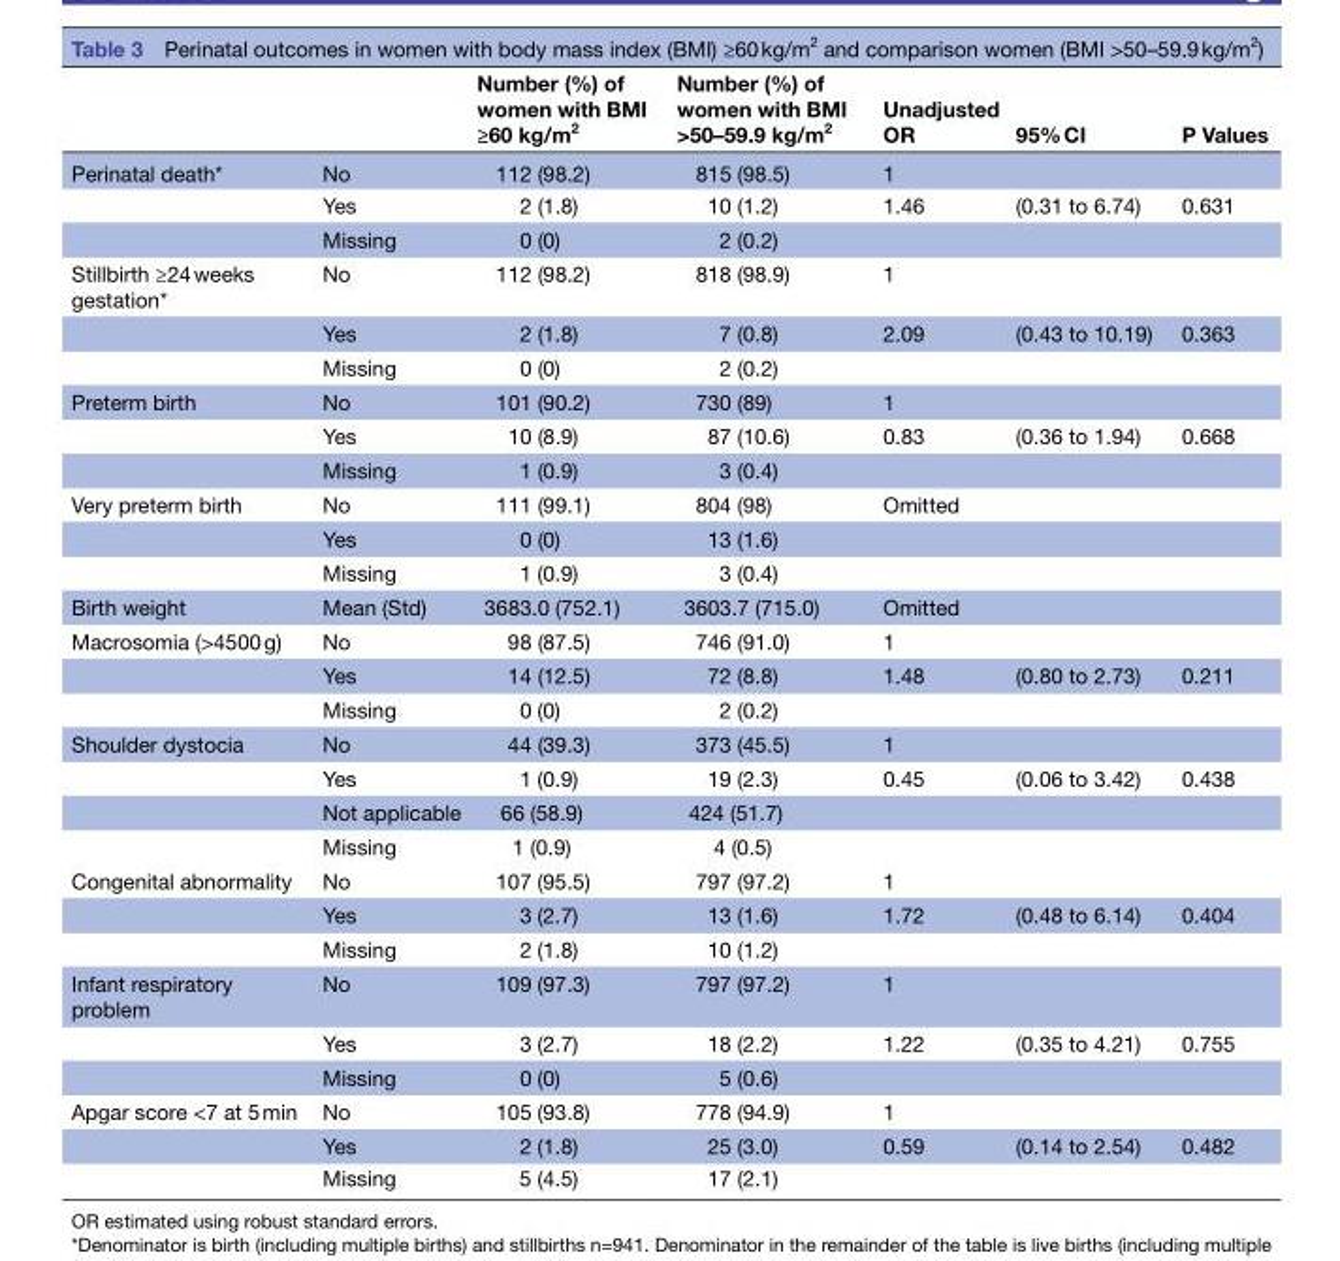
<table><thead><tr><td></td><td></td><td>Number (%) of women with BMI ≥60 kg/m<sup>2</sup></td><td>Number (%) of women with BMI &gt;50–59.9 kg/m<sup>2</sup></td><td>Unadjusted OR</td><td>95% CI</td><td>P Values</td></tr></thead><tbody><tr><td rowspan="3">Perinatal death*</td><td>No</td><td>112 (98.2)</td><td>815 (98.5)</td><td>1</td><td></td><td></td></tr><tr><td>Yes</td><td>2 (1.8)</td><td>10 (1.2)</td><td>1.46</td><td>(0.31 to 6.74)</td><td>0.631</td></tr><tr><td>Missing</td><td>0 (0)</td><td>2 (0.2)</td><td></td><td></td><td></td></tr><tr><td rowspan="3">Stillbirth ≥24 weeks gestation*</td><td>No</td><td>112 (98.2)</td><td>818 (98.9)</td><td>1</td><td></td><td></td></tr><tr><td>Yes</td><td>2 (1.8)</td><td>7 (0.8)</td><td>2.09</td><td>(0.43 to 10.19)</td><td>0.363</td></tr><tr><td>Missing</td><td>0 (0)</td><td>2 (0.2)</td><td></td><td></td><td></td></tr><tr><td rowspan="3">Preterm birth</td><td>No</td><td>101 (90.2)</td><td>730 (89)</td><td>1</td><td></td><td></td></tr><tr><td>Yes</td><td>10 (8.9)</td><td>87 (10.6)</td><td>0.83</td><td>(0.36 to 1.94)</td><td>0.668</td></tr><tr><td>Missing</td><td>1 (0.9)</td><td>3 (0.4)</td><td></td><td></td><td></td></tr><tr><td rowspan="3">Very preterm birth</td><td>No</td><td>111 (99.1)</td><td>804 (98)</td><td>Omitted</td><td></td><td></td></tr><tr><td>Yes</td><td>0 (0)</td><td>13 (1.6)</td><td></td><td></td><td></td></tr><tr><td>Missing</td><td>1 (0.9)</td><td>3 (0.4)</td><td></td><td></td><td></td></tr><tr><td>Birth weight</td><td>Mean (Std)</td><td>3683.0 (752.1)</td><td>3603.7 (715.0)</td><td>Omitted</td><td></td><td></td></tr><tr><td rowspan="3">Macrosomia (&gt;4500 g)</td><td>No</td><td>98 (87.5)</td><td>746 (91.0)</td><td>1</td><td></td><td></td></tr><tr><td>Yes</td><td>14 (12.5)</td><td>72 (8.8)</td><td>1.48</td><td>(0.80 to 2.73)</td><td>0.211</td></tr><tr><td>Missing</td><td>0 (0)</td><td>2 (0.2)</td><td></td><td></td><td></td></tr><tr><td rowspan="4">Shoulder dystocia</td><td>No</td><td>44 (39.3)</td><td>373 (45.5)</td><td>1</td><td></td><td></td></tr><tr><td>Yes</td><td>1 (0.9)</td><td>19 (2.3)</td><td>0.45</td><td>(0.06 to 3.42)</td><td>0.438</td></tr><tr><td>Not applicable</td><td>66 (58.9)</td><td>424 (51.7)</td><td></td><td></td><td></td></tr><tr><td>Missing</td><td>1 (0.9)</td><td>4 (0.5)</td><td></td><td></td><td></td></tr><tr><td rowspan="3">Congenital abnormality</td><td>No</td><td>107 (95.5)</td><td>797 (97.2)</td><td>1</td><td></td><td></td></tr><tr><td>Yes</td><td>3 (2.7)</td><td>13 (1.6)</td><td>1.72</td><td>(0.48 to 6.14)</td><td>0.404</td></tr><tr><td>Missing</td><td>2 (1.8)</td><td>10 (1.2)</td><td></td><td></td><td></td></tr><tr><td rowspan="3">Infant respiratory problem</td><td>No</td><td>109 (97.3)</td><td>797 (97.2)</td><td>1</td><td></td><td></td></tr><tr><td>Yes</td><td>3 (2.7)</td><td>18 (2.2)</td><td>1.22</td><td>(0.35 to 4.21)</td><td>0.755</td></tr><tr><td>Missing</td><td>0 (0)</td><td>5 (0.6)</td><td></td><td></td><td></td></tr><tr><td rowspan="3">Apgar score &lt;7 at 5 min</td><td>No</td><td>105 (93.8)</td><td>778 (94.9)</td><td>1</td><td></td><td></td></tr><tr><td>Yes</td><td>2 (1.8)</td><td>25 (3.0)</td><td>0.59</td><td>(0.14 to 2.54)</td><td>0.482</td></tr><tr><td>Missing</td><td>5 (4.5)</td><td>17 (2.1)</td><td></td><td></td><td></td></tr></tbody></table>